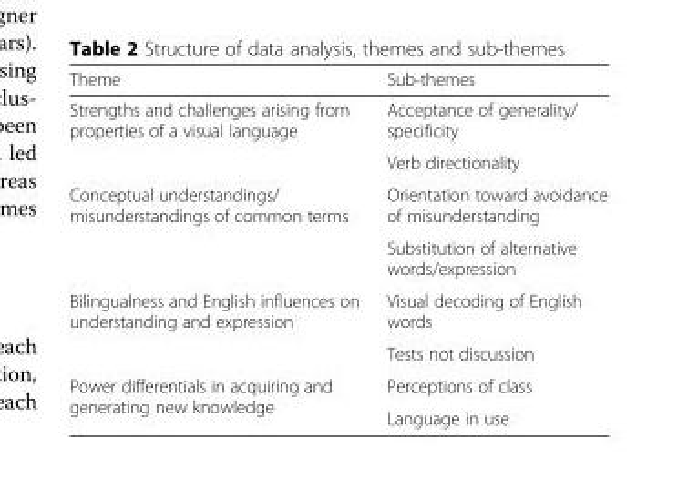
<table><thead><tr><td>Theme</td><td>Sub-themes</td></tr></thead><tbody><tr><td rowspan="2">Strengths and challenges arising from properties of a visual language</td><td>Acceptance of generality/ specificity</td></tr><tr><td>Verb directionality</td></tr><tr><td rowspan="2">Conceptual understandings/ misunderstandings of common terms</td><td>Orientation toward avoidance of misunderstanding</td></tr><tr><td>Substitution of alternative words/expression</td></tr><tr><td rowspan="2">Bilingualness and English influences on understanding and expression</td><td>Visual decoding of English words</td></tr><tr><td>Tests not discussion</td></tr><tr><td rowspan="2">Power differentials in acquiring and generating new knowledge</td><td>Perceptions of class</td></tr><tr><td>Language in use</td></tr></tbody></table>